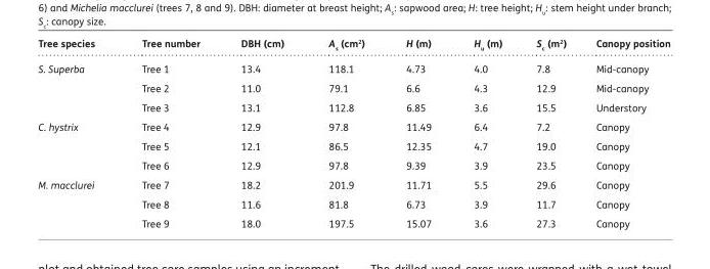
<table><thead><tr><td>Tree species</td><td>Tree number</td><td>DBH (cm)</td><td>A<sub>s</sub> (cm<sup>2</sup>)</td><td>H (m)</td><td>H<sub>u</sub> (m)</td><td>S<sub>c</sub> (m<sup>2</sup>)</td><td>Canopy position</td></tr></thead><tbody><tr><td rowspan="3">S. Superba</td><td>Tree 1</td><td>13.4</td><td>118.1</td><td>4.73</td><td>4.0</td><td>7.8</td><td>Mid-canopy</td></tr><tr><td>Tree 2</td><td>11.0</td><td>79.1</td><td>6.6</td><td>4.3</td><td>12.9</td><td>Mid-canopy</td></tr><tr><td>Tree 3</td><td>13.1</td><td>112.8</td><td>6.85</td><td>3.6</td><td>15.5</td><td>Understory</td></tr><tr><td rowspan="3">C. hystrix</td><td>Tree 4</td><td>12.9</td><td>97.8</td><td>11.49</td><td>6.4</td><td>7.2</td><td>Canopy</td></tr><tr><td>Tree 5</td><td>12.1</td><td>86.5</td><td>12.35</td><td>4.7</td><td>19.0</td><td>Canopy</td></tr><tr><td>Tree 6</td><td>12.9</td><td>97.8</td><td>9.39</td><td>3.9</td><td>23.5</td><td>Canopy</td></tr><tr><td rowspan="3">M. macclurei</td><td>Tree 7</td><td>18.2</td><td>201.9</td><td>11.71</td><td>5.5</td><td>29.6</td><td>Canopy</td></tr><tr><td>Tree 8</td><td>11.6</td><td>81.8</td><td>6.73</td><td>3.9</td><td>11.7</td><td>Canopy</td></tr><tr><td>Tree 9</td><td>18.0</td><td>197.5</td><td>15.07</td><td>3.6</td><td>27.3</td><td>Canopy</td></tr></tbody></table>